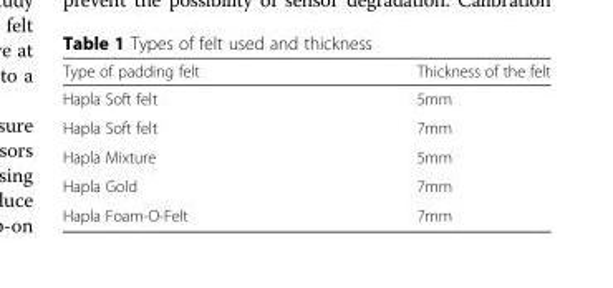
<table><thead><tr><td>Type of padding felt</td><td>Thickness of the felt</td></tr></thead><tbody><tr><td>Hapla Soft felt</td><td>5mm</td></tr><tr><td>Hapla Soft felt</td><td>7mm</td></tr><tr><td>Hapla Mixture</td><td>5mm</td></tr><tr><td>Hapla Gold</td><td>7mm</td></tr><tr><td>Hapla Foam-O-Felt</td><td>7mm</td></tr></tbody></table>